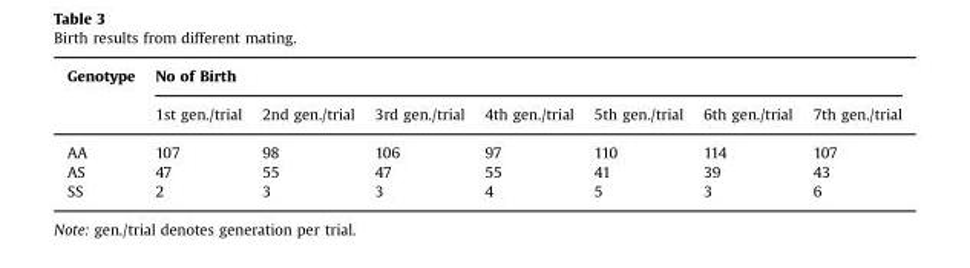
<table><thead><tr><td rowspan="2">Genotype</td><td colspan="7">No of Birth</td></tr><tr><td>1st gen./trial</td><td>2nd gen./trial</td><td>3rd gen./trial</td><td>4th gen./trial</td><td>5th gen./trial</td><td>6th gen./trial</td><td>7th gen./trial</td></tr></thead><tbody><tr><td>AA</td><td>107</td><td>98</td><td>106</td><td>97</td><td>110</td><td>114</td><td>107</td></tr><tr><td>AS</td><td>47</td><td>55</td><td>47</td><td>55</td><td>41</td><td>39</td><td>43</td></tr><tr><td>SS</td><td>2</td><td>3</td><td>3</td><td>4</td><td>5</td><td>3</td><td>6</td></tr></tbody></table>